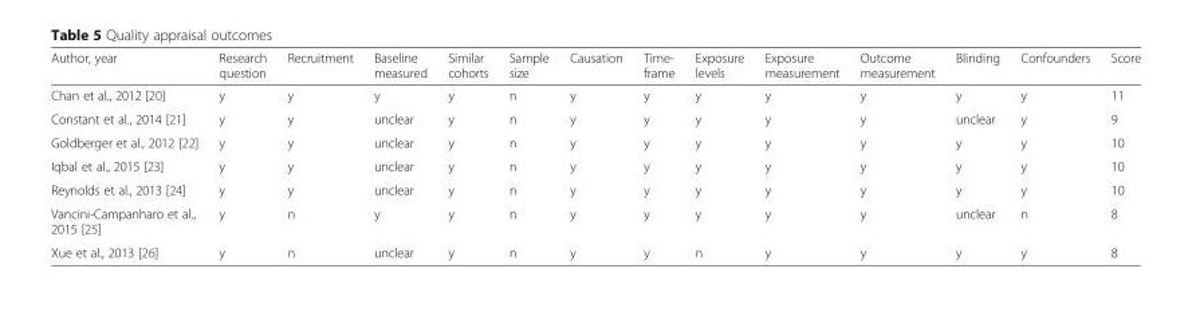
<table><thead><tr><td>Author, year</td><td>Research question</td><td>Recruitment</td><td>Baseline measured</td><td>Similar cohorts</td><td>Sample size</td><td>Causation</td><td>Time- frame</td><td>Exposure levels</td><td>Exposure measurement</td><td>Outcome measurement</td><td>Blinding</td><td>Confounders</td><td>Score</td></tr></thead><tbody><tr><td>Chan et al., 2012 [20]</td><td>y</td><td>y</td><td>y</td><td>y</td><td>n</td><td>y</td><td>y</td><td>y</td><td>y</td><td>y</td><td>y</td><td>y</td><td>11</td></tr><tr><td>Constant et al., 2014 [21]</td><td>y</td><td>y</td><td>unclear</td><td>y</td><td>n</td><td>y</td><td>y</td><td>y</td><td>y</td><td>y</td><td>unclear</td><td>y</td><td>9</td></tr><tr><td>Goldberger et al., 2012 [22]</td><td>y</td><td>y</td><td>unclear</td><td>y</td><td>n</td><td>y</td><td>y</td><td>y</td><td>y</td><td>y</td><td>y</td><td>y</td><td>10</td></tr><tr><td>Iqbal et al., 2015 [23]</td><td>y</td><td>y</td><td>unclear</td><td>y</td><td>n</td><td>y</td><td>y</td><td>y</td><td>y</td><td>y</td><td>y</td><td>y</td><td>10</td></tr><tr><td>Reynolds et al., 2013 [24]</td><td>y</td><td>y</td><td>unclear</td><td>y</td><td>n</td><td>y</td><td>y</td><td>y</td><td>y</td><td>y</td><td>y</td><td>y</td><td>10</td></tr><tr><td>Vancini-Campanharo et al., 2015 [25]</td><td>y</td><td>n</td><td>y</td><td>y</td><td>n</td><td>y</td><td>y</td><td>y</td><td>y</td><td>y</td><td>unclear</td><td>n</td><td>8</td></tr><tr><td>Xue et al., 2013 [26]</td><td>y</td><td>n</td><td>unclear</td><td>y</td><td>n</td><td>y</td><td>y</td><td>n</td><td>y</td><td>y</td><td>y</td><td>y</td><td>8</td></tr></tbody></table>